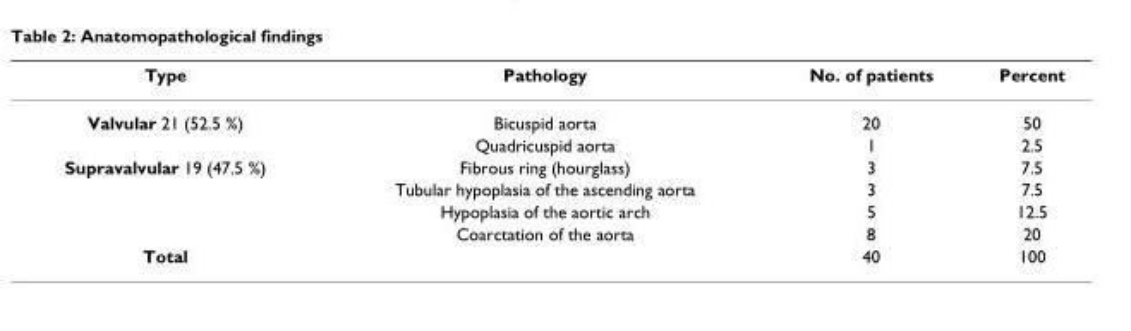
<table><thead><tr><td>Type</td><td>Pathology</td><td>No. of patients</td><td>Percent</td></tr></thead><tbody><tr><td rowspan="2">Valvular 21 (52.5 %)</td><td>Bicuspid aorta</td><td>20</td><td>50</td></tr><tr><td>Quadricuspid aorta</td><td>1</td><td>2.5</td></tr><tr><td rowspan="4">Supravalvular 19 (47.5 %)</td><td>Fibrous ring (hourglass)</td><td>3</td><td>7.5</td></tr><tr><td>Tubular hypoplasia of the ascending aorta</td><td>3</td><td>7.5</td></tr><tr><td>Hypoplasia of the aortic arch</td><td>5</td><td>12.5</td></tr><tr><td>Coarctation of the aorta</td><td>8</td><td>20</td></tr><tr><td>Total</td><td></td><td>40</td><td>100</td></tr></tbody></table>